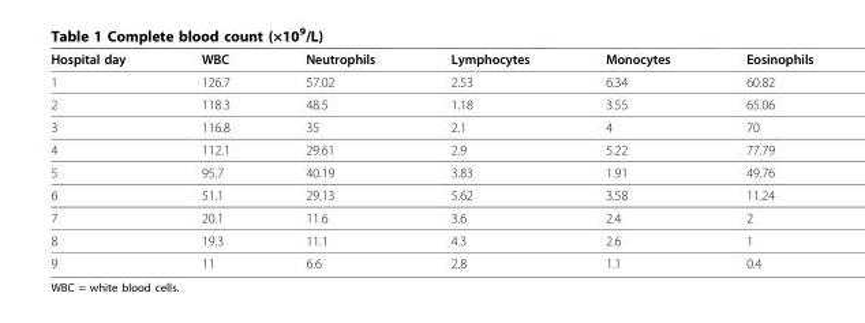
<table><thead><tr><td>Hospital day</td><td>WBC</td><td>Neutrophils</td><td>Lymphocytes</td><td>Monocytes</td><td>Eosinophils</td></tr></thead><tbody><tr><td>1</td><td>126.7</td><td>57.02</td><td>2.53</td><td>6.34</td><td>60.82</td></tr><tr><td>2</td><td>118.3</td><td>48.5</td><td>1.18</td><td>3.55</td><td>65.06</td></tr><tr><td>3</td><td>116.8</td><td>35</td><td>2.1</td><td>4</td><td>70</td></tr><tr><td>4</td><td>112.1</td><td>29.61</td><td>2.9</td><td>5.22</td><td>77.79</td></tr><tr><td>5</td><td>95.7</td><td>40.19</td><td>3.83</td><td>1.91</td><td>49.76</td></tr><tr><td>6</td><td>51.1</td><td>29.13</td><td>5.62</td><td>3.58</td><td>11.24</td></tr><tr><td>7</td><td>20.1</td><td>11.6</td><td>3.6</td><td>2.4</td><td>2</td></tr><tr><td>8</td><td>19.3</td><td>11.1</td><td>4.3</td><td>2.6</td><td>1</td></tr><tr><td>9</td><td>11</td><td>6.6</td><td>2.8</td><td>1.1</td><td>0.4</td></tr></tbody></table>